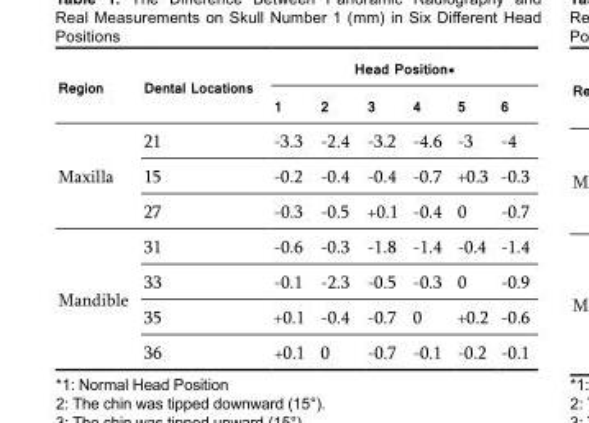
<table><thead><tr><td rowspan="2">Region</td><td rowspan="2">Dental Locations</td><td colspan="6">Head Position*</td></tr><tr><td>1</td><td>2</td><td>3</td><td>4</td><td>5</td><td>6</td></tr></thead><tbody><tr><td rowspan="3">Maxilla</td><td>21</td><td>-3.3</td><td>-2.4</td><td>-3.2</td><td>-4.6</td><td>-3</td><td>-4</td></tr><tr><td>15</td><td>-0.2</td><td>-0.4</td><td>-0.4</td><td>-0.7</td><td>+0.3</td><td>-0.3</td></tr><tr><td>27</td><td>-0.3</td><td>-0.5</td><td>+0.1</td><td>-0.4</td><td>0</td><td>-0.7</td></tr><tr><td rowspan="4">Mandible</td><td>31</td><td>-0.6</td><td>-0.3</td><td>-1.8</td><td>-1.4</td><td>-0.4</td><td>-1.4</td></tr><tr><td>33</td><td>-0.1</td><td>-2.3</td><td>-0.5</td><td>-0.3</td><td>0</td><td>-0.9</td></tr><tr><td>35</td><td>+0.1</td><td>-0.4</td><td>-0.7</td><td>0</td><td>+0.2</td><td>-0.6</td></tr><tr><td>36</td><td>+0.1</td><td>0</td><td>-0.7</td><td>-0.1</td><td>-0.2</td><td>-0.1</td></tr></tbody></table>